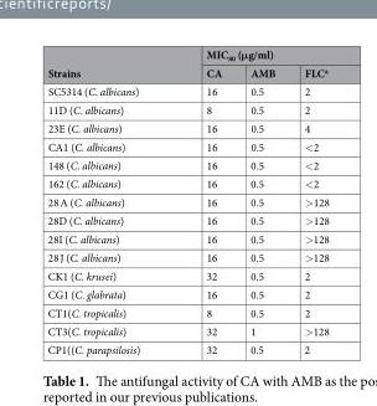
<table><thead><tr><td rowspan="2">Strains</td><td colspan="3">MIC<sub>80</sub> (μg/ml)</td></tr><tr><td>CA</td><td>AMB</td><td>FLC<sup>a</sup></td></tr></thead><tbody><tr><td>SC5314 (C. albicans)</td><td>16</td><td>0.5</td><td>2</td></tr><tr><td>11D (C. albicans)</td><td>8</td><td>0.5</td><td>2</td></tr><tr><td>23E (C. albicans)</td><td>16</td><td>0.5</td><td>4</td></tr><tr><td>CA1 (C. albicans)</td><td>16</td><td>0.5</td><td>&lt;2</td></tr><tr><td>148 (C. albicans)</td><td>16</td><td>0.5</td><td>&lt;2</td></tr><tr><td>162 (C. albicans)</td><td>16</td><td>0.5</td><td>&lt;2</td></tr><tr><td>28 A (C. albicans)</td><td>16</td><td>0.5</td><td>&gt;128</td></tr><tr><td>28D (C. albicans)</td><td>16</td><td>0.5</td><td>&gt;128</td></tr><tr><td>28I (C. albicans)</td><td>16</td><td>0.5</td><td>&gt;128</td></tr><tr><td>28 J (C. albicans)</td><td>16</td><td>0.5</td><td>&gt;128</td></tr><tr><td>CK1 (C. krusei)</td><td>32</td><td>0.5</td><td>2</td></tr><tr><td>CG1 (C. glabrata)</td><td>16</td><td>0.5</td><td>2</td></tr><tr><td>CT1(C. tropicalis)</td><td>8</td><td>0.5</td><td>2</td></tr><tr><td>CT3(C. tropicalis)</td><td>32</td><td>1</td><td>&gt;128</td></tr><tr><td>CP1((C. parapsilosis)</td><td>32</td><td>0.5</td><td>2</td></tr></tbody></table>